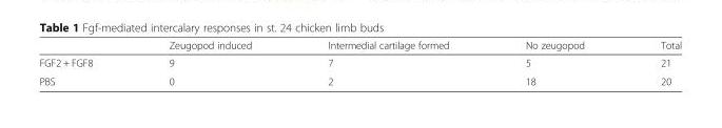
<table><thead><tr><td></td><td>Zeugopod induced</td><td>Intermedial cartilage formed</td><td>No zeugopod</td><td>Total</td></tr></thead><tbody><tr><td>FGF2 + FGF8</td><td>9</td><td>7</td><td>5</td><td>21</td></tr><tr><td>PBS</td><td>0</td><td>2</td><td>18</td><td>20</td></tr></tbody></table>